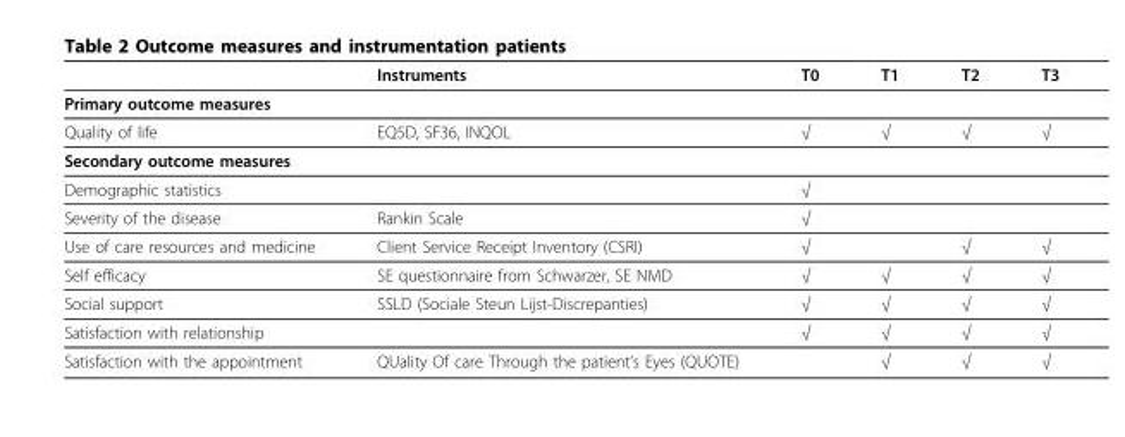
<table><thead><tr><td></td><td>Instruments</td><td>T0</td><td>T1</td><td>T2</td><td>T3</td></tr></thead><tbody><tr><td colspan="6">Primary outcome measures</td></tr><tr><td>Quality of life</td><td>EQ5D, SF36, INQOL</td><td>√</td><td>√</td><td>√</td><td>√</td></tr><tr><td colspan="6">Secondary outcome measures</td></tr><tr><td>Demographic statistics</td><td></td><td>√</td><td></td><td></td><td></td></tr><tr><td>Severity of the disease</td><td>Rankin Scale</td><td>√</td><td></td><td></td><td></td></tr><tr><td>Use of care resources and medicine</td><td>Client Service Receipt Inventory (CSRI)</td><td>√</td><td></td><td>√</td><td>√</td></tr><tr><td>Self efficacy</td><td>SE questionnaire from Schwarzer, SE NMD</td><td>√</td><td>√</td><td>√</td><td>√</td></tr><tr><td>Social support</td><td>SSLD (Sociale Steun Lijst-Discrepanties)</td><td>√</td><td>√</td><td>√</td><td>√</td></tr><tr><td>Satisfaction with relationship</td><td></td><td>√</td><td>√</td><td>√</td><td>√</td></tr><tr><td>Satisfaction with the appointment</td><td>QUality Of care Through the patient’s Eyes (QUOTE)</td><td></td><td>√</td><td>√</td><td>√</td></tr></tbody></table>